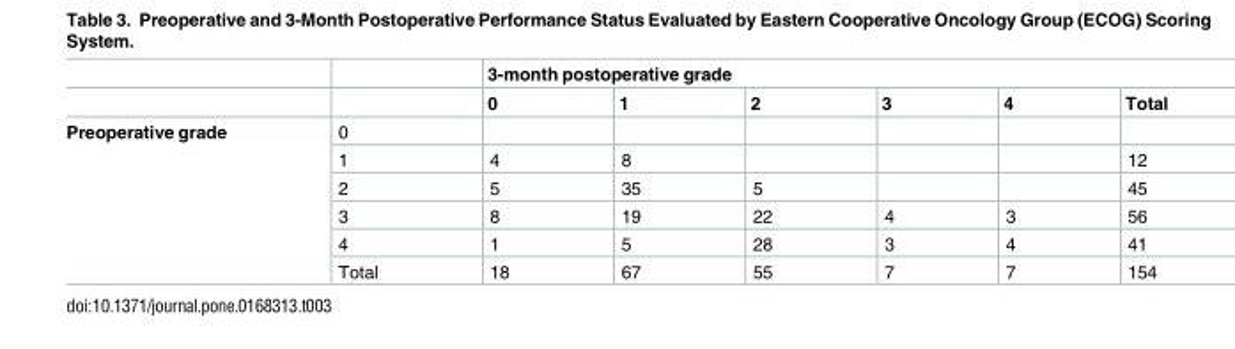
<table><thead><tr><td rowspan="2"></td><td rowspan="2"></td><td colspan="6">3-month postoperative grade</td></tr><tr><td>0</td><td>1</td><td>2</td><td>3</td><td>4</td><td>Total</td></tr></thead><tbody><tr><td rowspan="6">Preoperative grade</td><td>0</td><td></td><td></td><td></td><td></td><td></td><td></td></tr><tr><td>1</td><td>4</td><td>8</td><td></td><td></td><td></td><td>12</td></tr><tr><td>2</td><td>5</td><td>35</td><td>5</td><td></td><td></td><td>45</td></tr><tr><td>3</td><td>8</td><td>19</td><td>22</td><td>4</td><td>3</td><td>56</td></tr><tr><td>4</td><td>1</td><td>5</td><td>28</td><td>3</td><td>4</td><td>41</td></tr><tr><td>Total</td><td>18</td><td>67</td><td>55</td><td>7</td><td>7</td><td>154</td></tr></tbody></table>